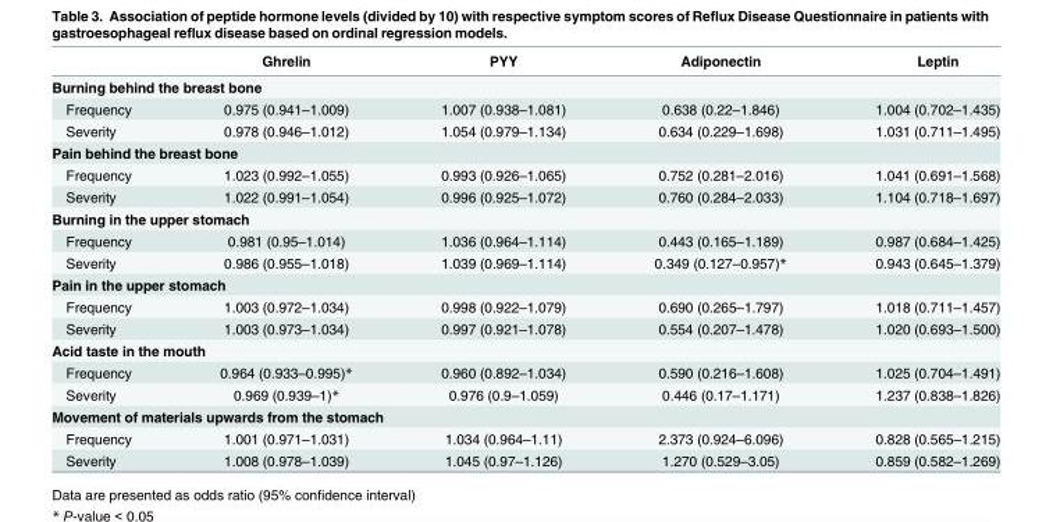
<table><thead><tr><td></td><td>Ghrelin</td><td>PYY</td><td>Adiponectin</td><td>Leptin</td></tr></thead><tbody><tr><td colspan="5">Burning behind the breast bone</td></tr><tr><td>Frequency</td><td>0.975 (0.941–1.009)</td><td>1.007 (0.938–1.081)</td><td>0.638 (0.22–1.846)</td><td>1.004 (0.702–1.435)</td></tr><tr><td>Severity</td><td>0.978 (0.946–1.012)</td><td>1.054 (0.979–1.134)</td><td>0.634 (0.229–1.698)</td><td>1.031 (0.711–1.495)</td></tr><tr><td colspan="5">Pain behind the breast bone</td></tr><tr><td>Frequency</td><td>1.023 (0.992–1.055)</td><td>0.993 (0.926–1.065)</td><td>0.752 (0.281–2.016)</td><td>1.041 (0.691–1.568)</td></tr><tr><td>Severity</td><td>1.022 (0.991–1.054)</td><td>0.996 (0.925–1.072)</td><td>0.760 (0.284–2.033)</td><td>1.104 (0.718–1.697)</td></tr><tr><td colspan="5">Burning in the upper stomach</td></tr><tr><td>Frequency</td><td>0.981 (0.95–1.014)</td><td>1.036 (0.964–1.114)</td><td>0.443 (0.165–1.189)</td><td>0.987 (0.684–1.425)</td></tr><tr><td>Severity</td><td>0.986 (0.955–1.018)</td><td>1.039 (0.969–1.114)</td><td>0.349 (0.127–0.957)*</td><td>0.943 (0.645–1.379)</td></tr><tr><td colspan="5">Pain in the upper stomach</td></tr><tr><td>Frequency</td><td>1.003 (0.972–1.034)</td><td>0.998 (0.922–1.079)</td><td>0.690 (0.265–1.797)</td><td>1.018 (0.711–1.457)</td></tr><tr><td>Severity</td><td>1.003 (0.973–1.034)</td><td>0.997 (0.921–1.078)</td><td>0.554 (0.207–1.478)</td><td>1.020 (0.693–1.500)</td></tr><tr><td colspan="5">Acid taste in the mouth</td></tr><tr><td>Frequency</td><td>0.964 (0.933–0.995)*</td><td>0.960 (0.892–1.034)</td><td>0.590 (0.216–1.608)</td><td>1.025 (0.704–1.491)</td></tr><tr><td>Severity</td><td>0.969 (0.939–1)*</td><td>0.976 (0.9–1.059)</td><td>0.446 (0.17–1.171)</td><td>1.237 (0.838–1.826)</td></tr><tr><td colspan="5">Movement of materials upwards from the stomach</td></tr><tr><td>Frequency</td><td>1.001 (0.971–1.031)</td><td>1.034 (0.964–1.11)</td><td>2.373 (0.924–6.096)</td><td>0.828 (0.565–1.215)</td></tr><tr><td>Severity</td><td>1.008 (0.978–1.039)</td><td>1.045 (0.97–1.126)</td><td>1.270 (0.529–3.05)</td><td>0.859 (0.582–1.269)</td></tr></tbody></table>